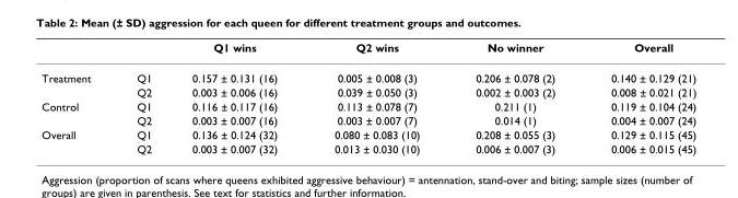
<table><thead><tr><td></td><td></td><td>Q1 wins</td><td>Q2 wins</td><td>No winner</td><td>Overall</td></tr></thead><tbody><tr><td rowspan="2">Treatment</td><td>Q1</td><td>0.157 ± 0.131 (16)</td><td>0.005 ± 0.008 (3)</td><td>0.206 ± 0.078 (2)</td><td>0.140 ± 0.129 (21)</td></tr><tr><td>Q2</td><td>0.003 ± 0.006 (16)</td><td>0.039 ± 0.050 (3)</td><td>0.002 ± 0.003 (2)</td><td>0.008 ± 0.021 (21)</td></tr><tr><td rowspan="2">Control</td><td>Q1</td><td>0.116 ± 0.117 (16)</td><td>0.113 ± 0.078 (7)</td><td>0.211 (1)</td><td>0.119 ± 0.104 (24)</td></tr><tr><td>Q2</td><td>0.003 ± 0.007 (16)</td><td>0.003 ± 0.007 (7)</td><td>0.014 (1)</td><td>0.004 ± 0.007 (24)</td></tr><tr><td rowspan="2">Overall</td><td>Q1</td><td>0.136 ± 0.124 (32)</td><td>0.080 ± 0.083 (10)</td><td>0.208 ± 0.055 (3)</td><td>0.129 ± 0.115 (45)</td></tr><tr><td>Q2</td><td>0.003 ± 0.007 (32)</td><td>0.013 ± 0.030 (10)</td><td>0.006 ± 0.007 (3)</td><td>0.006 ± 0.015 (45)</td></tr></tbody></table>